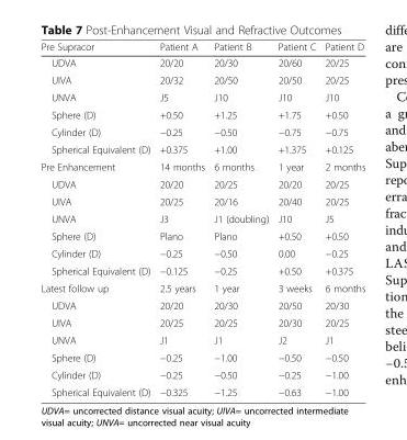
<table><thead><tr><td>Pre Supracor</td><td>Patient A</td><td>Patient B</td><td>Patient C</td><td>Patient D</td></tr></thead><tbody><tr><td>UDVA</td><td>20/20</td><td>20/30</td><td>20/60</td><td>20/25</td></tr><tr><td>UIVA</td><td>20/32</td><td>20/50</td><td>20/50</td><td>20/25</td></tr><tr><td>UNVA</td><td>J5</td><td>J10</td><td>J10</td><td>J10</td></tr><tr><td>Sphere (D)</td><td>+0.50</td><td>+1.25</td><td>+1.75</td><td>+0.50</td></tr><tr><td>Cylinder (D)</td><td>−0.25</td><td>−0.50</td><td>−0.75</td><td>−0.75</td></tr><tr><td>Spherical Equivalent (D)</td><td>+0.375</td><td>+1.00</td><td>+1.375</td><td>+0.125</td></tr><tr><td>Pre Enhancement</td><td>14 months</td><td>6 months</td><td>1 year</td><td>2 months</td></tr><tr><td>UDVA</td><td>20/20</td><td>20/25</td><td>20/20</td><td>20/25</td></tr><tr><td>UIVA</td><td>20/25</td><td>20/16</td><td>20/40</td><td>20/25</td></tr><tr><td>UNVA</td><td>J3</td><td>J1 (doubling)</td><td>J10</td><td>J5</td></tr><tr><td>Sphere (D)</td><td>Plano</td><td>Plano</td><td>+0.50</td><td>+0.50</td></tr><tr><td>Cylinder (D)</td><td>−0.25</td><td>−0.50</td><td>0.00</td><td>−0.25</td></tr><tr><td>Spherical Equivalent (D)</td><td>−0.125</td><td>−0.25</td><td>+0.50</td><td>+0.375</td></tr><tr><td>Latest follow up</td><td>2.5 years</td><td>1 year</td><td>3 weeks</td><td>6 months</td></tr><tr><td>UDVA</td><td>20/20</td><td>20/30</td><td>20/50</td><td>20/30</td></tr><tr><td>UIVA</td><td>20/25</td><td>20/25</td><td>20/30</td><td>20/25</td></tr><tr><td>UNVA</td><td>J1</td><td>J1</td><td>J2</td><td>J1</td></tr><tr><td>Sphere (D)</td><td>−0.25</td><td>−1.00</td><td>−0.50</td><td>−0.50</td></tr><tr><td>Cylinder (D)</td><td>−0.25</td><td>−0.50</td><td>−0.25</td><td>−1.00</td></tr><tr><td>Spherical Equivalent (D)</td><td>−0.325</td><td>−1.25</td><td>−0.63</td><td>−1.00</td></tr></tbody></table>